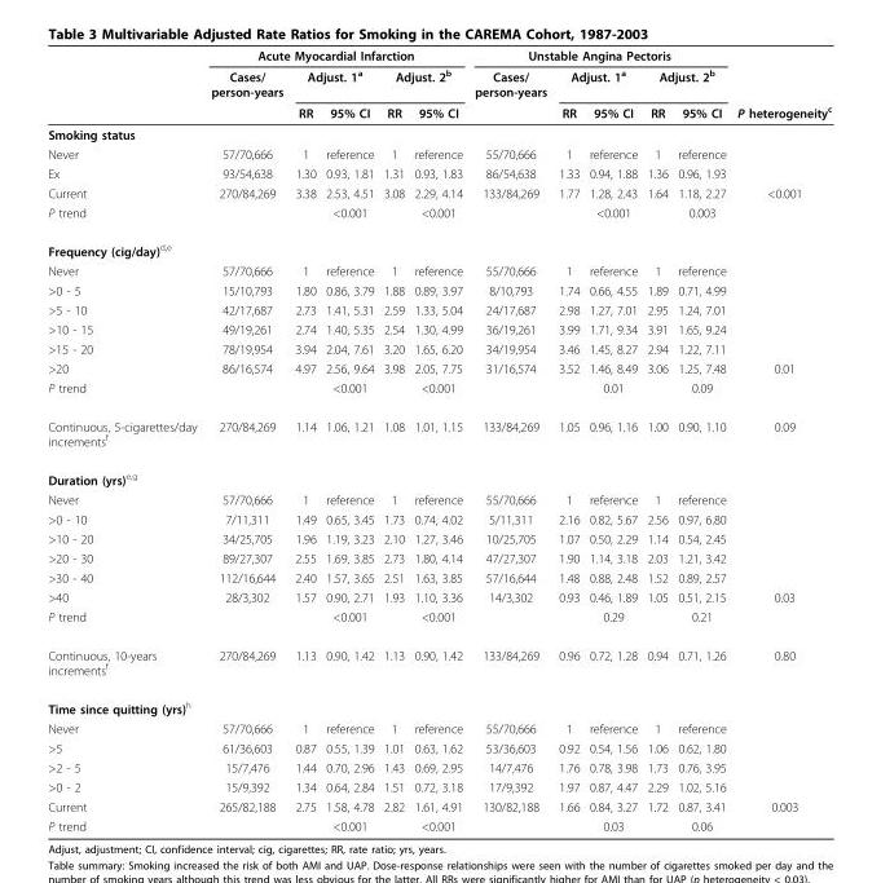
<table><thead><tr><td rowspan="3"></td><td colspan="5">Acute Myocardial Infarction</td><td colspan="5">Unstable Angina Pectoris</td><td rowspan="3">P heterogeneity<sup>c</sup></td></tr><tr><td rowspan="2">Cases/ person-years</td><td colspan="2">Adjust. 1<sup>a</sup></td><td colspan="2">Adjust. 2<sup>b</sup></td><td rowspan="2">Cases/ person-years</td><td colspan="2">Adjust. 1<sup>a</sup></td><td colspan="2">Adjust. 2<sup>b</sup></td></tr><tr><td>RR</td><td>95% CI</td><td>RR</td><td>95% CI</td><td>RR</td><td>95% CI</td><td>RR</td><td>95% CI</td></tr></thead><tbody><tr><td colspan="12">Smoking status</td></tr><tr><td>Never</td><td>57/70,666</td><td>1</td><td>reference</td><td>1</td><td>reference</td><td>55/70,666</td><td>1</td><td>reference</td><td>1</td><td>reference</td><td></td></tr><tr><td>Ex</td><td>93/54,638</td><td>1.30</td><td>0.93, 1.81</td><td>1.31</td><td>0.93, 1.83</td><td>86/54,638</td><td>1.33</td><td>0.94, 1.88</td><td>1.36</td><td>0.96, 1.93</td><td></td></tr><tr><td>Current</td><td>270/84,269</td><td>3.38</td><td>2.53, 4.51</td><td>3.08</td><td>2.29, 4.14</td><td>133/84,269</td><td>1.77</td><td>1.28, 2.43</td><td>1.64</td><td>1.18, 2.27</td><td>&lt;0.001</td></tr><tr><td>P trend</td><td></td><td></td><td>&lt;0.001</td><td></td><td>&lt;0.001</td><td></td><td></td><td>&lt;0.001</td><td></td><td>0.003</td><td></td></tr><tr><td colspan="12">Frequency (cig/day)<sup>d,e</sup></td></tr><tr><td>Never</td><td>57/70,666</td><td>1</td><td>reference</td><td>1</td><td>reference</td><td>55/70,666</td><td>1</td><td>reference</td><td>1</td><td>reference</td><td></td></tr><tr><td>&gt;0 - 5</td><td>15/10,793</td><td>1.80</td><td>0.86, 3.79</td><td>1.88</td><td>0.89, 3.97</td><td>8/10,793</td><td>1.74</td><td>0.66, 4.55</td><td>1.89</td><td>0.71, 4.99</td><td></td></tr><tr><td>&gt;5 - 10</td><td>42/17,687</td><td>2.73</td><td>1.41, 5.31</td><td>2.59</td><td>1.33, 5.04</td><td>24/17,687</td><td>2.98</td><td>1.27, 7.01</td><td>2.95</td><td>1.24, 7.01</td><td></td></tr><tr><td>&gt;10 - 15</td><td>49/19,261</td><td>2.74</td><td>1.40, 5.35</td><td>2.54</td><td>1.30, 4.99</td><td>36/19,261</td><td>3.99</td><td>1.71, 9.34</td><td>3.91</td><td>1.65, 9.24</td><td></td></tr><tr><td>&gt;15 - 20</td><td>78/19,954</td><td>3.94</td><td>2.04, 7.61</td><td>3.20</td><td>1.65, 6.20</td><td>34/19,954</td><td>3.46</td><td>1.45, 8.27</td><td>2.94</td><td>1.22, 7.11</td><td></td></tr><tr><td>&gt;20</td><td>86/16,574</td><td>4.97</td><td>2.56, 9.64</td><td>3.98</td><td>2.05, 7.75</td><td>31/16,574</td><td>3.52</td><td>1.46, 8.49</td><td>3.06</td><td>1.25, 7.48</td><td>0.01</td></tr><tr><td>P trend</td><td></td><td></td><td>&lt;0.001</td><td></td><td>&lt;0.001</td><td></td><td></td><td>0.01</td><td></td><td>0.09</td><td></td></tr><tr><td>Continuous, 5-cigarettes/day increments<sup>f</sup></td><td>270/84,269</td><td>1.14</td><td>1.06, 1.21</td><td>1.08</td><td>1.01, 1.15</td><td>133/84,269</td><td>1.05</td><td>0.96, 1.16</td><td>1.00</td><td>0.90, 1.10</td><td>0.09</td></tr><tr><td colspan="12">Duration (yrs)<sup>e,g</sup></td></tr><tr><td>Never</td><td>57/70,666</td><td>1</td><td>reference</td><td>1</td><td>reference</td><td>55/70,666</td><td>1</td><td>reference</td><td>1</td><td>reference</td><td></td></tr><tr><td>&gt;0 - 10</td><td>7/11,311</td><td>1.49</td><td>0.65, 3.45</td><td>1.73</td><td>0.74, 4.02</td><td>5/11,311</td><td>2.16</td><td>0.82, 5.67</td><td>2.56</td><td>0.97, 6.80</td><td></td></tr><tr><td>&gt;10 - 20</td><td>34/25,705</td><td>1.96</td><td>1.19, 3.23</td><td>2.10</td><td>1.27, 3.46</td><td>10/25,705</td><td>1.07</td><td>0.50, 2.29</td><td>1.14</td><td>0.54, 2.45</td><td></td></tr><tr><td>&gt;20 - 30</td><td>89/27,307</td><td>2.55</td><td>1.69, 3.85</td><td>2.73</td><td>1.80, 4.14</td><td>47/27,307</td><td>1.90</td><td>1.14, 3.18</td><td>2.03</td><td>1.21, 3.42</td><td></td></tr><tr><td>&gt;30 - 40</td><td>112/16,644</td><td>2.40</td><td>1.57, 3.65</td><td>2.51</td><td>1.63, 3.85</td><td>57/16,644</td><td>1.48</td><td>0.88, 2.48</td><td>1.52</td><td>0.89, 2.57</td><td></td></tr><tr><td>&gt;40</td><td>28/3,302</td><td>1.57</td><td>0.90, 2.71</td><td>1.93</td><td>1.10, 3.36</td><td>14/3,302</td><td>0.93</td><td>0.46, 1.89</td><td>1.05</td><td>0.51, 2.15</td><td>0.03</td></tr><tr><td>P trend</td><td></td><td></td><td>&lt;0.001</td><td></td><td>&lt;0.001</td><td></td><td></td><td>0.29</td><td></td><td>0.21</td><td></td></tr><tr><td>Continuous, 10-years increments<sup>f</sup></td><td>270/84,269</td><td>1.13</td><td>0.90, 1.42</td><td>1.13</td><td>0.90, 1.42</td><td>133/84,269</td><td>0.96</td><td>0.72, 1.28</td><td>0.94</td><td>0.71, 1.26</td><td>0.80</td></tr><tr><td colspan="12">Time since quitting (yrs)<sup>h</sup></td></tr><tr><td>Never</td><td>57/70,666</td><td>1</td><td>reference</td><td>1</td><td>reference</td><td>55/70,666</td><td>1</td><td>reference</td><td>1</td><td>reference</td><td></td></tr><tr><td>&gt;5</td><td>61/36,603</td><td>0.87</td><td>0.55, 1.39</td><td>1.01</td><td>0.63, 1.62</td><td>53/36,603</td><td>0.92</td><td>0.54, 1.56</td><td>1.06</td><td>0.62, 1.80</td><td></td></tr><tr><td>&gt;2 - 5</td><td>15/7,476</td><td>1.44</td><td>0.70, 2.96</td><td>1.43</td><td>0.69, 2.95</td><td>14/7,476</td><td>1.76</td><td>0.78, 3.98</td><td>1.73</td><td>0.76, 3.95</td><td></td></tr><tr><td>&gt;0 - 2</td><td>15/9,392</td><td>1.34</td><td>0.64, 2.84</td><td>1.51</td><td>0.72, 3.18</td><td>17/9,392</td><td>1.97</td><td>0.87, 4.47</td><td>2.29</td><td>1.02, 5.16</td><td></td></tr><tr><td>Current</td><td>265/82,188</td><td>2.75</td><td>1.58, 4.78</td><td>2.82</td><td>1.61, 4.91</td><td>130/82,188</td><td>1.66</td><td>0.84, 3.27</td><td>1.72</td><td>0.87, 3.41</td><td>0.003</td></tr><tr><td>P trend</td><td></td><td></td><td>&lt;0.001</td><td></td><td>&lt;0.001</td><td></td><td></td><td>0.03</td><td></td><td>0.06</td><td></td></tr></tbody></table>